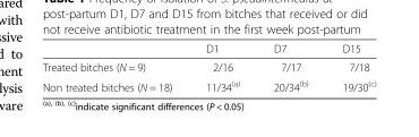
<table><thead><tr><td></td><td>D1</td><td>D7</td><td>D15</td></tr></thead><tbody><tr><td>Treated bitches (N = 9)</td><td>2/16</td><td>7/17</td><td>7/18</td></tr><tr><td>Non treated bitches (N = 18)</td><td>11/34<sup>(a)</sup></td><td>20/34<sup>(b)</sup></td><td>19/30<sup>(c)</sup></td></tr></tbody></table>